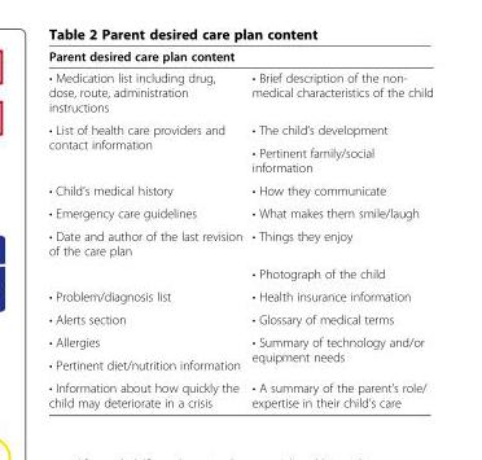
<table><thead><tr><td colspan="2">Parent desired care plan content</td></tr><tr><td>• Medication list including drug, dose, route, administration instructions</td><td>• Brief description of the non- medical characteristics of the child</td></tr></thead><tbody><tr><td rowspan="2">• List of health care providers and contact information</td><td>• The child’s development</td></tr><tr><td>• Pertinent family/social information</td></tr><tr><td>• Child’s medical history</td><td>• How they communicate</td></tr><tr><td>• Emergency care guidelines</td><td>• What makes them smile/laugh</td></tr><tr><td rowspan="2">• Date and author of the last revision of the care plan</td><td>• Things they enjoy</td></tr><tr><td>• Photograph of the child</td></tr><tr><td>• Problem/diagnosis list</td><td>• Health insurance information</td></tr><tr><td>• Alerts section</td><td>• Glossary of medical terms</td></tr><tr><td>• Allergies</td><td rowspan="2">• Summary of technology and/or equipment needs</td></tr><tr><td>• Pertinent diet/nutrition information</td></tr><tr><td>• Information about how quickly the child may deteriorate in a crisis</td><td>• A summary of the parent’s role/ expertise in their child’s care</td></tr></tbody></table>